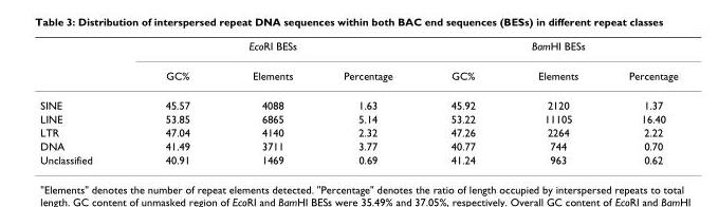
<table><thead><tr><td rowspan="2"></td><td colspan="3">EcoRI BESs</td><td colspan="3">BamHI BESs</td></tr><tr><td>GC%</td><td>Elements</td><td>Percentage</td><td>GC%</td><td>Elements</td><td>Percentage</td></tr></thead><tbody><tr><td>SINE</td><td>45.57</td><td>4088</td><td>1.63</td><td>45.92</td><td>2120</td><td>1.37</td></tr><tr><td>LINE</td><td>53.85</td><td>6865</td><td>5.14</td><td>53.22</td><td>11105</td><td>16.40</td></tr><tr><td>LTR</td><td>47.04</td><td>4140</td><td>2.32</td><td>47.26</td><td>2264</td><td>2.22</td></tr><tr><td>DNA</td><td>41.49</td><td>3711</td><td>3.77</td><td>40.77</td><td>744</td><td>0.70</td></tr><tr><td>Unclassified</td><td>40.91</td><td>1469</td><td>0.69</td><td>41.24</td><td>963</td><td>0.62</td></tr></tbody></table>